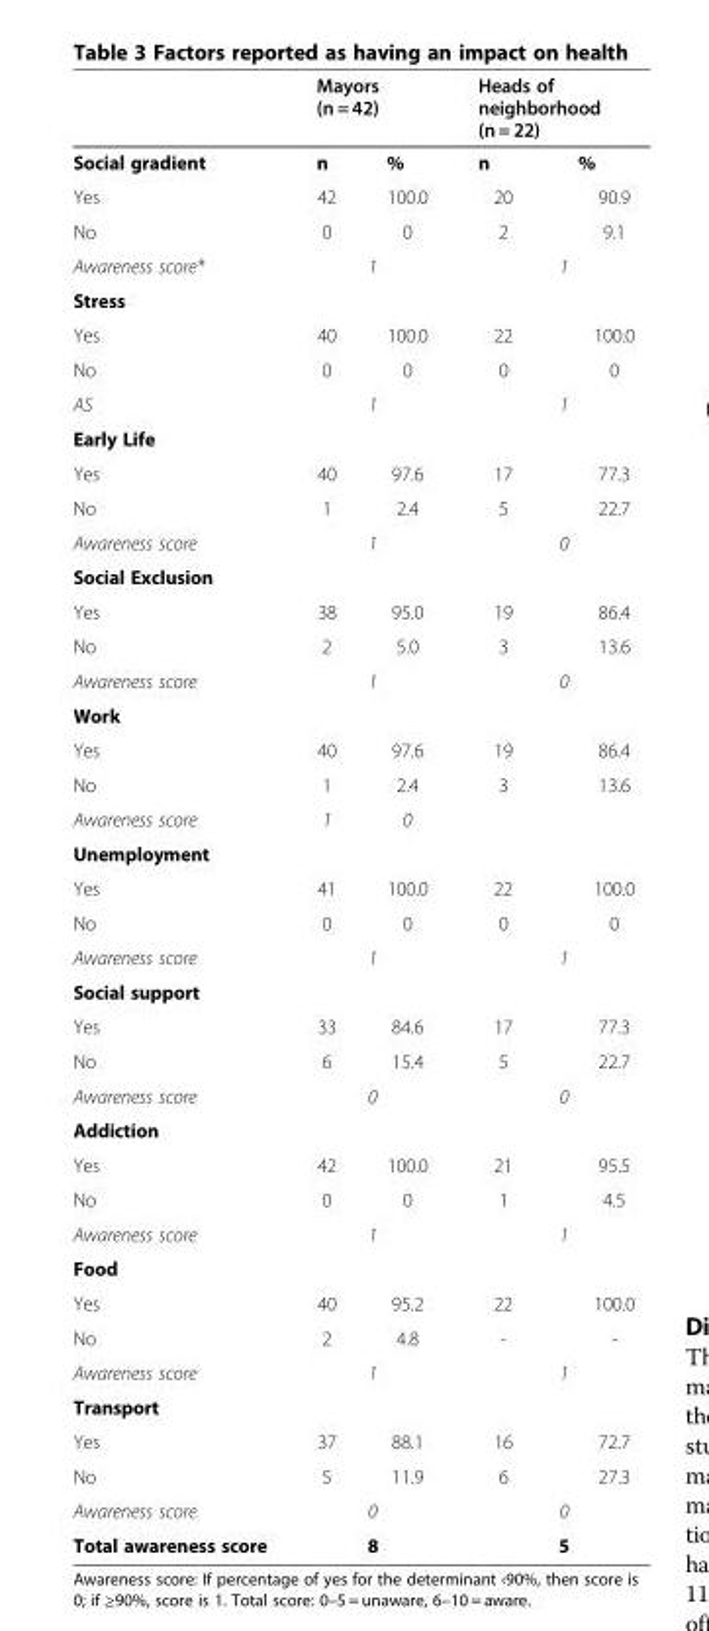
<table><thead><tr><td rowspan="2">Social gradient</td><td colspan="2">Mayors (n = 42)</td><td colspan="2">Heads of neighborhood (n = 22)</td></tr><tr><td>n</td><td>%</td><td>n</td><td>%</td></tr></thead><tbody><tr><td>Yes</td><td>42</td><td>100.0</td><td>20</td><td>90.9</td></tr><tr><td>No</td><td>0</td><td>0</td><td>2</td><td>9.1</td></tr><tr><td>Awareness score*</td><td colspan="2">1</td><td colspan="2">1</td></tr><tr><td colspan="5">Stress</td></tr><tr><td>Yes</td><td>40</td><td>100.0</td><td>22</td><td>100.0</td></tr><tr><td>No</td><td>0</td><td>0</td><td>0</td><td>0</td></tr><tr><td>AS</td><td colspan="2">1</td><td colspan="2">1</td></tr><tr><td colspan="5">Early Life</td></tr><tr><td>Yes</td><td>40</td><td>97.6</td><td>17</td><td>77.3</td></tr><tr><td>No</td><td>1</td><td>2.4</td><td>5</td><td>22.7</td></tr><tr><td>Awareness score</td><td colspan="2">1</td><td colspan="2">0</td></tr><tr><td colspan="5">Social Exclusion</td></tr><tr><td>Yes</td><td>38</td><td>95.0</td><td>19</td><td>86.4</td></tr><tr><td>No</td><td>2</td><td>5.0</td><td>3</td><td>13.6</td></tr><tr><td>Awareness score</td><td colspan="2">1</td><td colspan="2">0</td></tr><tr><td colspan="5">Work</td></tr><tr><td>Yes</td><td>40</td><td>97.6</td><td>19</td><td>86.4</td></tr><tr><td>No</td><td>1</td><td>2.4</td><td>3</td><td>13.6</td></tr><tr><td>Awareness score</td><td>1</td><td>0</td><td></td><td></td></tr><tr><td colspan="5">Unemployment</td></tr><tr><td>Yes</td><td>41</td><td>100.0</td><td>22</td><td>100.0</td></tr><tr><td>No</td><td>0</td><td>0</td><td>0</td><td>0</td></tr><tr><td>Awareness score</td><td colspan="2">1</td><td colspan="2">1</td></tr><tr><td colspan="5">Social support</td></tr><tr><td>Yes</td><td>33</td><td>84.6</td><td>17</td><td>77.3</td></tr><tr><td>No</td><td>6</td><td>15.4</td><td>5</td><td>22.7</td></tr><tr><td>Awareness score</td><td colspan="2">0</td><td colspan="2">0</td></tr><tr><td colspan="5">Addiction</td></tr><tr><td>Yes</td><td>42</td><td>100.0</td><td>21</td><td>95.5</td></tr><tr><td>No</td><td>0</td><td>0</td><td>1</td><td>4.5</td></tr><tr><td>Awareness score</td><td colspan="2">1</td><td colspan="2">1</td></tr><tr><td colspan="5">Food</td></tr><tr><td>Yes</td><td>40</td><td>95.2</td><td>22</td><td>100.0</td></tr><tr><td>No</td><td>2</td><td>4.8</td><td>-</td><td>-</td></tr><tr><td>Awareness score</td><td colspan="2">1</td><td colspan="2">1</td></tr><tr><td colspan="5">Transport</td></tr><tr><td>Yes</td><td>37</td><td>88.1</td><td>16</td><td>72.7</td></tr><tr><td>No</td><td>5</td><td>11.9</td><td>6</td><td>27.3</td></tr><tr><td>Awareness score</td><td colspan="2">0</td><td colspan="2">0</td></tr><tr><td>Total awareness score</td><td colspan="2">8</td><td colspan="2">5</td></tr></tbody></table>